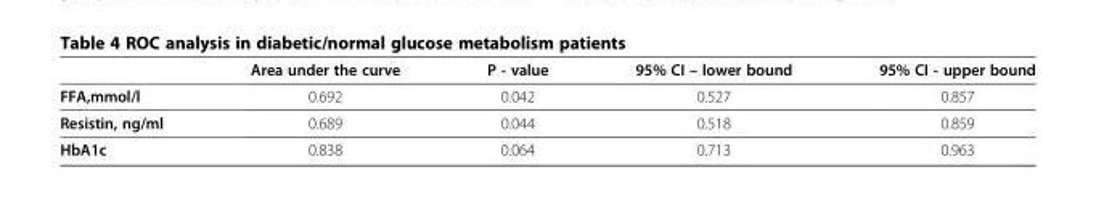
<table><thead><tr><td></td><td>Area under the curve</td><td>P - value</td><td>95% CI – lower bound</td><td>95% CI - upper bound</td></tr></thead><tbody><tr><td>FFA,mmol/l</td><td>0.692</td><td>0.042</td><td>0.527</td><td>0.857</td></tr><tr><td>Resistin, ng/ml</td><td>0.689</td><td>0.044</td><td>0.518</td><td>0.859</td></tr><tr><td>HbA1c</td><td>0.838</td><td>0.064</td><td>0.713</td><td>0.963</td></tr></tbody></table>